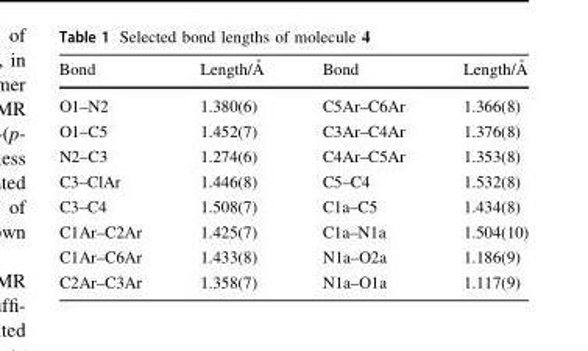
<table><thead><tr><td>Bond</td><td>Length/A˚</td><td>Bond</td><td>Length/A˚</td></tr></thead><tbody><tr><td>O1–N2</td><td>1.380(6)</td><td>C5Ar–C6Ar</td><td>1.366(8)</td></tr><tr><td>O1–C5</td><td>1.452(7)</td><td>C3Ar–C4Ar</td><td>1.376(8)</td></tr><tr><td>N2–C3</td><td>1.274(6)</td><td>C4Ar–C5Ar</td><td>1.353(8)</td></tr><tr><td>C3–ClAr</td><td>1.446(8)</td><td>C5–C4</td><td>1.532(8)</td></tr><tr><td>C3–C4</td><td>1.508(7)</td><td>C1a–C5</td><td>1.434(8)</td></tr><tr><td>C1Ar–C2Ar</td><td>1.425(7)</td><td>C1a–N1a</td><td>1.504(10)</td></tr><tr><td>C1Ar–C6Ar</td><td>1.433(8)</td><td>N1a–O2a</td><td>1.186(9)</td></tr><tr><td>C2Ar–C3Ar</td><td>1.358(7)</td><td>N1a–O1a</td><td>1.117(9)</td></tr></tbody></table>